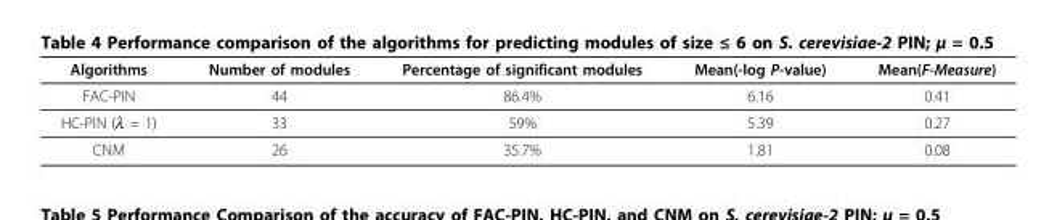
<table><thead><tr><td>Algorithms</td><td>Number of modules</td><td>Percentage of significant modules</td><td>Mean(-log P-value)</td><td>Mean(F-Measure)</td></tr></thead><tbody><tr><td>FAC-PIN</td><td>44</td><td>86.4%</td><td>6.16</td><td>0.41</td></tr><tr><td>HC-PIN (λ = 1)</td><td>33</td><td>59%</td><td>5.39</td><td>0.27</td></tr><tr><td>CNM</td><td>26</td><td>35.7%</td><td>1.81</td><td>0.08</td></tr></tbody></table>